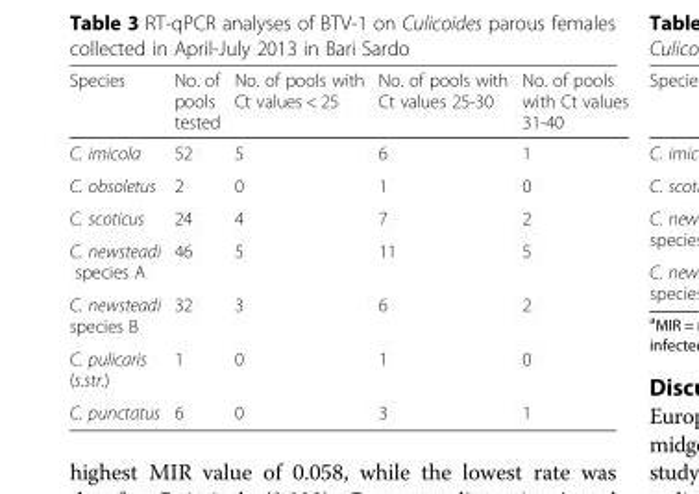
<table><thead><tr><td>Species</td><td>No. of pools tested</td><td>No. of pools with Ct values &lt; 25</td><td>No. of pools with Ct values 25-30</td><td>No. of pools with Ct values 31-40</td></tr></thead><tbody><tr><td>C. imicola</td><td>52</td><td>5</td><td>6</td><td>1</td></tr><tr><td>C. obsoletus</td><td>2</td><td>0</td><td>1</td><td>0</td></tr><tr><td>C. scoticus</td><td>24</td><td>4</td><td>7</td><td>2</td></tr><tr><td>C. newsteadi species A</td><td>46</td><td>5</td><td>11</td><td>5</td></tr><tr><td>C. newsteadi species B</td><td>32</td><td>3</td><td>6</td><td>2</td></tr><tr><td>C. pulicaris (s.str.)</td><td>1</td><td>0</td><td>1</td><td>0</td></tr><tr><td>C. punctatus</td><td>6</td><td>0</td><td>3</td><td>1</td></tr></tbody></table>